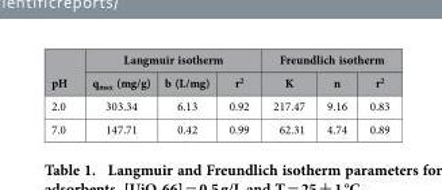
<table><thead><tr><td rowspan="2">pH</td><td colspan="3">Langmuir isotherm</td><td colspan="3">Freundlich isotherm</td></tr><tr><td>q<sub>max</sub> (mg/g)</td><td>b (L/mg)</td><td>r<sup>2</sup></td><td>K</td><td>n</td><td>r<sup>2</sup></td></tr></thead><tbody><tr><td>2.0</td><td>303.34</td><td>6.13</td><td>0.92</td><td>217.47</td><td>9.16</td><td>0.83</td></tr><tr><td>7.0</td><td>147.71</td><td>0.42</td><td>0.99</td><td>62.31</td><td>4.74</td><td>0.89</td></tr></tbody></table>